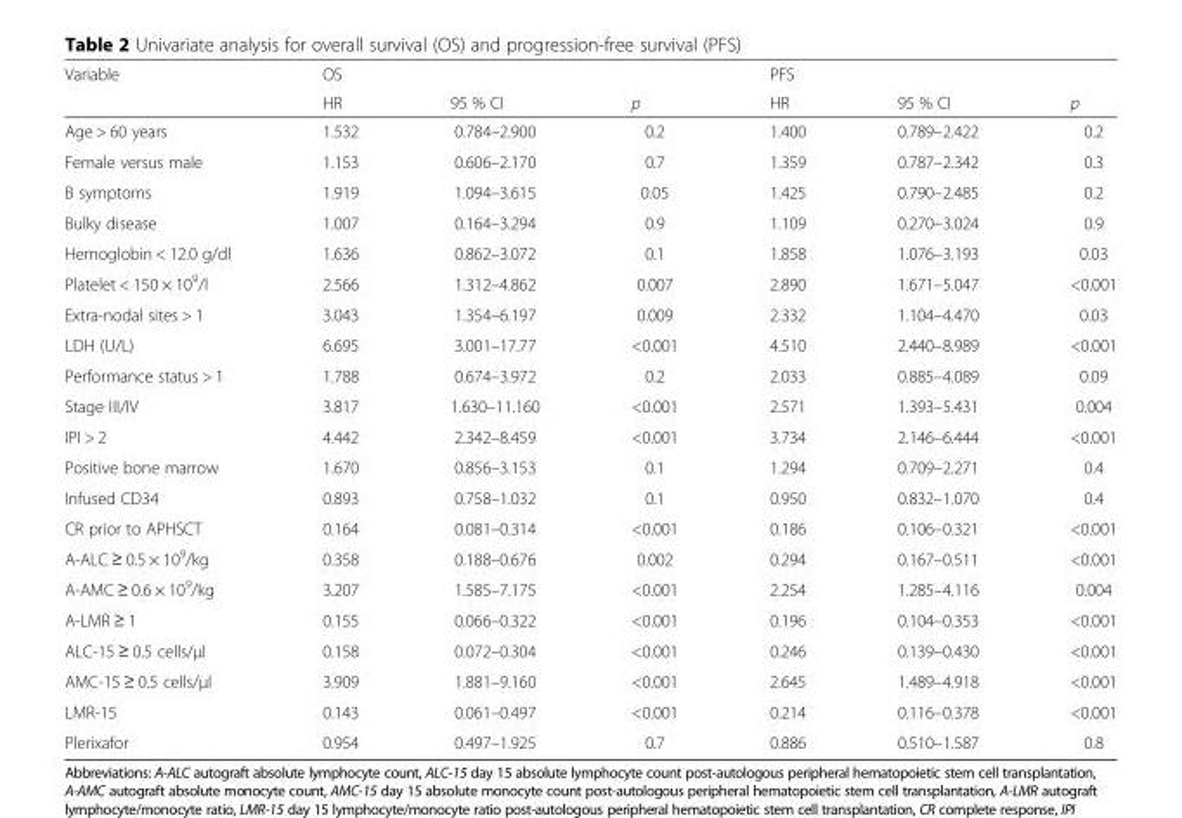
<table><thead><tr><td rowspan="2">Variable</td><td colspan="3">OS</td><td colspan="3">PFS</td></tr><tr><td>HR</td><td>95 % CI</td><td>p</td><td>HR</td><td>95 % CI</td><td>p</td></tr></thead><tbody><tr><td>Age &gt; 60 years</td><td>1.532</td><td>0.784–2.900</td><td>0.2</td><td>1.400</td><td>0.789–2.422</td><td>0.2</td></tr><tr><td>Female versus male</td><td>1.153</td><td>0.606–2.170</td><td>0.7</td><td>1.359</td><td>0.787–2.342</td><td>0.3</td></tr><tr><td>B symptoms</td><td>1.919</td><td>1.094–3.615</td><td>0.05</td><td>1.425</td><td>0.790–2.485</td><td>0.2</td></tr><tr><td>Bulky disease</td><td>1.007</td><td>0.164–3.294</td><td>0.9</td><td>1.109</td><td>0.270–3.024</td><td>0.9</td></tr><tr><td>Hemoglobin &lt; 12.0 g/dl</td><td>1.636</td><td>0.862–3.072</td><td>0.1</td><td>1.858</td><td>1.076–3.193</td><td>0.03</td></tr><tr><td>Platelet &lt; 150 × 10<sup>9</sup>/l</td><td>2.566</td><td>1.312–4.862</td><td>0.007</td><td>2.890</td><td>1.671–5.047</td><td>&lt;0.001</td></tr><tr><td>Extra-nodal sites &gt; 1</td><td>3.043</td><td>1.354–6.197</td><td>0.009</td><td>2.332</td><td>1.104–4.470</td><td>0.03</td></tr><tr><td>LDH (U/L)</td><td>6.695</td><td>3.001–17.77</td><td>&lt;0.001</td><td>4.510</td><td>2.440–8.989</td><td>&lt;0.001</td></tr><tr><td>Performance status &gt; 1</td><td>1.788</td><td>0.674–3.972</td><td>0.2</td><td>2.033</td><td>0.885–4.089</td><td>0.09</td></tr><tr><td>Stage III/IV</td><td>3.817</td><td>1.630–11.160</td><td>&lt;0.001</td><td>2.571</td><td>1.393–5.431</td><td>0.004</td></tr><tr><td>IPI &gt; 2</td><td>4.442</td><td>2.342–8.459</td><td>&lt;0.001</td><td>3.734</td><td>2.146–6.444</td><td>&lt;0.001</td></tr><tr><td>Positive bone marrow</td><td>1.670</td><td>0.856–3.153</td><td>0.1</td><td>1.294</td><td>0.709–2.271</td><td>0.4</td></tr><tr><td>Infused CD34</td><td>0.893</td><td>0.758–1.032</td><td>0.1</td><td>0.950</td><td>0.832–1.070</td><td>0.4</td></tr><tr><td>CR prior to APHSCT</td><td>0.164</td><td>0.081–0.314</td><td>&lt;0.001</td><td>0.186</td><td>0.106–0.321</td><td>&lt;0.001</td></tr><tr><td>A-ALC ≥ 0.5 × 10<sup>9</sup>/kg</td><td>0.358</td><td>0.188–0.676</td><td>0.002</td><td>0.294</td><td>0.167–0.511</td><td>&lt;0.001</td></tr><tr><td>A-AMC ≥ 0.6 × 10<sup>9</sup>/kg</td><td>3.207</td><td>1.585–7.175</td><td>&lt;0.001</td><td>2.254</td><td>1.285–4.116</td><td>0.004</td></tr><tr><td>A-LMR ≥ 1</td><td>0.155</td><td>0.066–0.322</td><td>&lt;0.001</td><td>0.196</td><td>0.104–0.353</td><td>&lt;0.001</td></tr><tr><td>ALC-15 ≥ 0.5 cells/μl</td><td>0.158</td><td>0.072–0.304</td><td>&lt;0.001</td><td>0.246</td><td>0.139–0.430</td><td>&lt;0.001</td></tr><tr><td>AMC-15 ≥ 0.5 cells/μl</td><td>3.909</td><td>1.881–9.160</td><td>&lt;0.001</td><td>2.645</td><td>1.489–4.918</td><td>&lt;0.001</td></tr><tr><td>LMR-15</td><td>0.143</td><td>0.061–0.497</td><td>&lt;0.001</td><td>0.214</td><td>0.116–0.378</td><td>&lt;0.001</td></tr><tr><td>Plerixafor</td><td>0.954</td><td>0.497–1.925</td><td>0.7</td><td>0.886</td><td>0.510–1.587</td><td>0.8</td></tr></tbody></table>